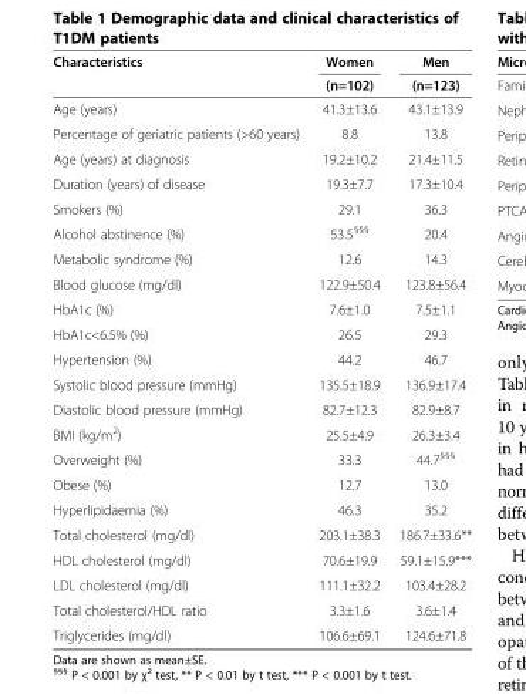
<table><thead><tr><td rowspan="2">Characteristics</td><td rowspan="2">Women (n=102)</td><td rowspan="2">Men (n=123)</td></tr><tr></tr></thead><tbody><tr><td>Age (years)</td><td>41.3±13.6</td><td>43.1±13.9</td></tr><tr><td>Percentage of geriatric patients (&gt;60 years)</td><td>8.8</td><td>13.8</td></tr><tr><td>Age (years) at diagnosis</td><td>19.2±10.2</td><td>21.4±11.5</td></tr><tr><td>Duration (years) of disease</td><td>19.3±7.7</td><td>17.3±10.4</td></tr><tr><td>Smokers (%)</td><td>29.1</td><td>36.3</td></tr><tr><td>Alcohol abstinence (%)</td><td>53.5<sup>§§§</sup></td><td>20.4</td></tr><tr><td>Metabolic syndrome (%)</td><td>12.6</td><td>14.3</td></tr><tr><td>Blood glucose (mg/dl)</td><td>122.9±50.4</td><td>123.8±56.4</td></tr><tr><td>HbA1c (%)</td><td>7.6±1.0</td><td>7.5±1.1</td></tr><tr><td>HbA1c&lt;6.5% (%)</td><td>26.5</td><td>29.3</td></tr><tr><td>Hypertension (%)</td><td>44.2</td><td>46.7</td></tr><tr><td>Systolic blood pressure (mmHg)</td><td>135.5±18.9</td><td>136.9±17.4</td></tr><tr><td>Diastolic blood pressure (mmHg)</td><td>82.7±12.3</td><td>82.9±8.7</td></tr><tr><td>BMI (kg/m<sup>2</sup>)</td><td>25.5±4.9</td><td>26.3±3.4</td></tr><tr><td>Overweight (%)</td><td>33.3</td><td>44.7<sup>§§§</sup></td></tr><tr><td>Obese (%)</td><td>12.7</td><td>13.0</td></tr><tr><td>Hyperlipidaemia (%)</td><td>46.3</td><td>35.2</td></tr><tr><td>Total cholesterol (mg/dl)</td><td>203.1±38.3</td><td>186.7±33.6**</td></tr><tr><td>HDL cholesterol (mg/dl)</td><td>70.6±19.9</td><td>59.1±15.9***</td></tr><tr><td>LDL cholesterol (mg/dl)</td><td>111.1±32.2</td><td>103.4±28.2</td></tr><tr><td>Total cholesterol/HDL ratio</td><td>3.3±1.6</td><td>3.6±1.4</td></tr><tr><td>Triglycerides (mg/dl)</td><td>106.6±69.1</td><td>124.6±71.8</td></tr></tbody></table>